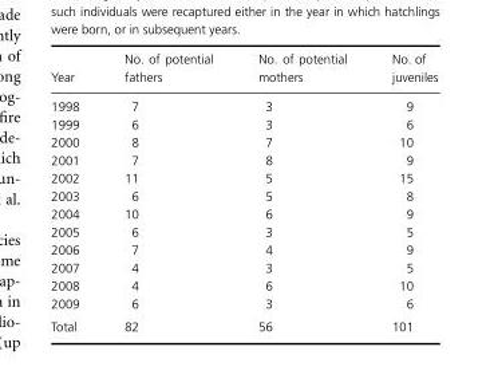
<table><thead><tr><td>Year</td><td>No. of potential fathers</td><td>No. of potential mothers</td><td>No. of juveniles</td></tr></thead><tbody><tr><td>1998</td><td>7</td><td>3</td><td>9</td></tr><tr><td>1999</td><td>6</td><td>3</td><td>6</td></tr><tr><td>2000</td><td>8</td><td>7</td><td>10</td></tr><tr><td>2001</td><td>7</td><td>8</td><td>9</td></tr><tr><td>2002</td><td>11</td><td>5</td><td>15</td></tr><tr><td>2003</td><td>6</td><td>5</td><td>8</td></tr><tr><td>2004</td><td>10</td><td>6</td><td>9</td></tr><tr><td>2005</td><td>6</td><td>3</td><td>5</td></tr><tr><td>2006</td><td>7</td><td>4</td><td>9</td></tr><tr><td>2007</td><td>4</td><td>3</td><td>5</td></tr><tr><td>2008</td><td>4</td><td>6</td><td>10</td></tr><tr><td>2009</td><td>6</td><td>3</td><td>6</td></tr><tr><td>Total</td><td>82</td><td>56</td><td>101</td></tr></tbody></table>